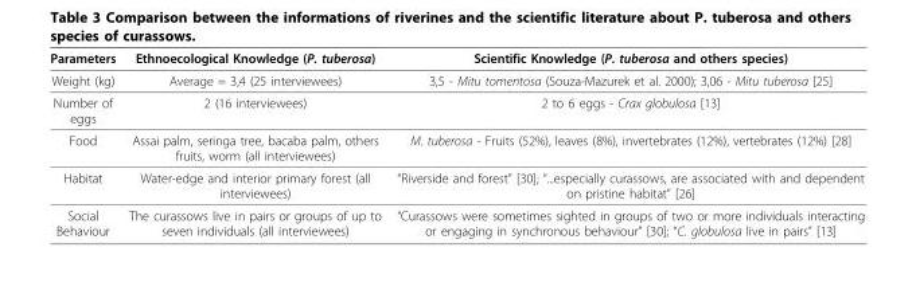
<table><thead><tr><td>Parameters</td><td>Ethnoecological Knowledge (P. tuberosa)</td><td>Scientific Knowledge (P. tuberosa and others species)</td></tr></thead><tbody><tr><td>Weight (kg)</td><td>Average = 3,4 (25 interviewees)</td><td>3,5 - Mitu tomentosa (Souza-Mazurek et al. 2000); 3,06 - Mitu tuberosa [25]</td></tr><tr><td>Number of eggs</td><td>2 (16 interviewees)</td><td>2 to 6 eggs - Crax globulosa [13]</td></tr><tr><td>Food</td><td>Assai palm, seringa tree, bacaba palm, others fruits, worm (all interviewees)</td><td>M. tuberosa - Fruits (52%), leaves (8%), invertebrates (12%), vertebrates (12%) [28]</td></tr><tr><td>Habitat</td><td>Water-edge and interior primary forest (all interviewees)</td><td>“Riverside and forest” [30]; “...especially curassows, are associated with and dependent on pristine habitat” [26]</td></tr><tr><td>Social Behaviour</td><td>The curassows live in pairs or groups of up to seven individuals (all interviewees)</td><td>“Curassows were sometimes sighted in groups of two or more individuals interacting or engaging in synchronous behaviour” [30]; “C. globulosa live in pairs” [13]</td></tr></tbody></table>